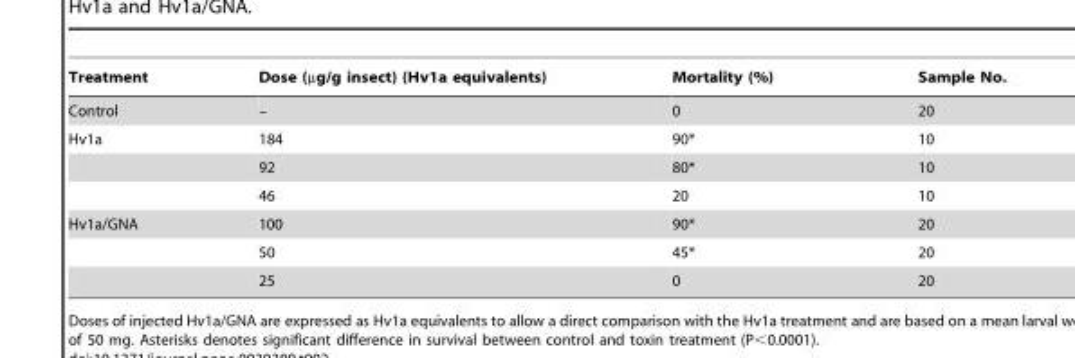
<table><thead><tr><td>Treatment</td><td>Dose (µg/g insect) (Hv1a equivalents)</td><td>Mortality (%)</td><td>Sample No.</td></tr></thead><tbody><tr><td>Control</td><td>–</td><td>0</td><td>20</td></tr><tr><td rowspan="3">Hv1a</td><td>184</td><td>90*</td><td>10</td></tr><tr><td>92</td><td>80*</td><td>10</td></tr><tr><td>46</td><td>20</td><td>10</td></tr><tr><td rowspan="3">Hv1a/GNA</td><td>100</td><td>90*</td><td>20</td></tr><tr><td>50</td><td>45*</td><td>20</td></tr><tr><td>25</td><td>0</td><td>20</td></tr></tbody></table>